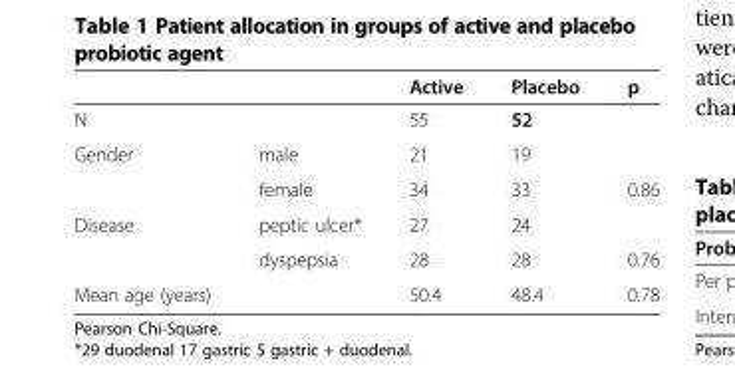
<table><thead><tr><td></td><td></td><td>Active</td><td>Placebo</td><td>p</td></tr></thead><tbody><tr><td>N</td><td></td><td>55</td><td>52</td><td></td></tr><tr><td rowspan="2">Gender</td><td>male</td><td>21</td><td>19</td><td></td></tr><tr><td>female</td><td>34</td><td>33</td><td>0.86</td></tr><tr><td rowspan="2">Disease</td><td>peptic ulcer*</td><td>27</td><td>24</td><td></td></tr><tr><td>dyspepsia</td><td>28</td><td>28</td><td>0.76</td></tr><tr><td>Mean age (years)</td><td></td><td>50.4</td><td>48.4</td><td>0.78</td></tr></tbody></table>